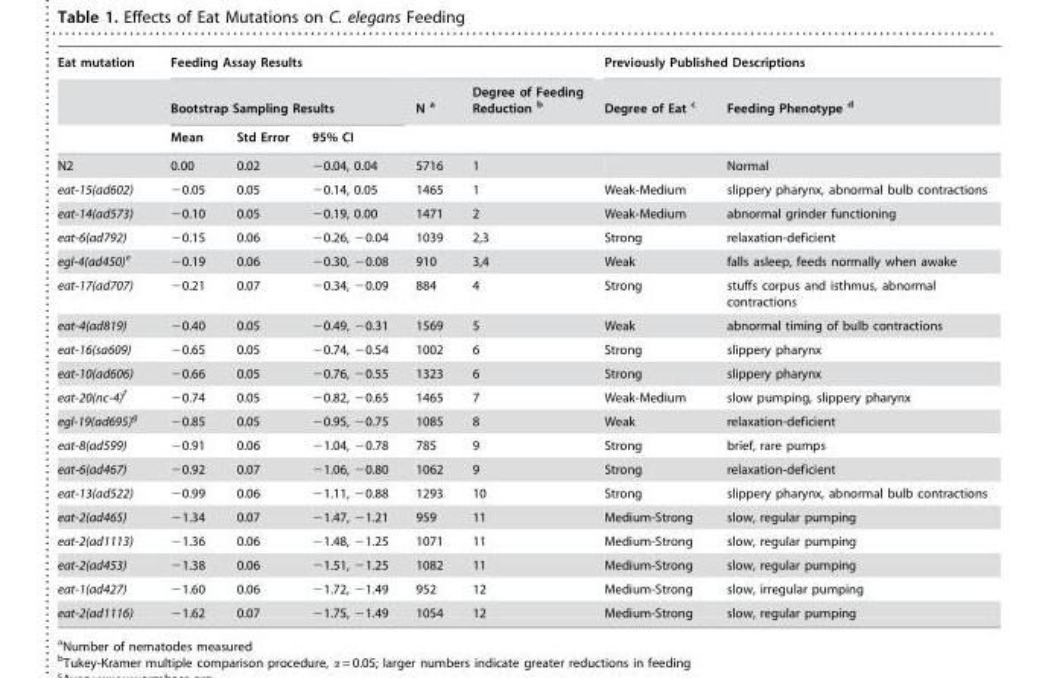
<table><thead><tr><td rowspan="3">Eat mutation</td><td colspan="5">Feeding Assay Results</td><td colspan="2">Previously Published Descriptions</td></tr><tr><td colspan="3">Bootstrap Sampling Results</td><td rowspan="2">N a</td><td rowspan="2">Degree of Feeding Reduction b</td><td rowspan="2">Degree of Eat c</td><td rowspan="2">Feeding Phenotype d</td></tr><tr><td>Mean</td><td>Std Error</td><td>95% CI</td></tr></thead><tbody><tr><td>N2</td><td>0.00</td><td>0.02</td><td>−0.04, 0.04</td><td>5716</td><td>1</td><td></td><td>Normal</td></tr><tr><td>eat-15(ad602)</td><td>−0.05</td><td>0.05</td><td>−0.14, 0.05</td><td>1465</td><td>1</td><td>Weak-Medium</td><td>slippery pharynx, abnormal bulb contractions</td></tr><tr><td>eat-14(ad573)</td><td>−0.10</td><td>0.05</td><td>−0.19, 0.00</td><td>1471</td><td>2</td><td>Weak-Medium</td><td>abnormal grinder functioning</td></tr><tr><td>eat-6(ad792)</td><td>−0.15</td><td>0.06</td><td>−0.26, −0.04</td><td>1039</td><td>2,3</td><td>Strong</td><td>relaxation-deficient</td></tr><tr><td>egl-4(ad450)e</td><td>−0.19</td><td>0.06</td><td>−0.30, −0.08</td><td>910</td><td>3,4</td><td>Weak</td><td>falls asleep, feeds normally when awake</td></tr><tr><td>eat-17(ad707)</td><td>−0.21</td><td>0.07</td><td>−0.34, −0.09</td><td>884</td><td>4</td><td>Strong</td><td>stuffs corpus and isthmus, abnormal contractions</td></tr><tr><td>eat-4(ad819)</td><td>−0.40</td><td>0.05</td><td>−0.49, −0.31</td><td>1569</td><td>5</td><td>Weak</td><td>abnormal timing of bulb contractions</td></tr><tr><td>eat-16(sa609)</td><td>−0.65</td><td>0.05</td><td>−0.74, −0.54</td><td>1002</td><td>6</td><td>Strong</td><td>slippery pharynx</td></tr><tr><td>eat-10(ad606)</td><td>−0.66</td><td>0.05</td><td>−0.76, −0.55</td><td>1323</td><td>6</td><td>Strong</td><td>slippery pharynx</td></tr><tr><td>eat-20(nc-4)f</td><td>−0.74</td><td>0.05</td><td>−0.82, −0.65</td><td>1465</td><td>7</td><td>Weak-Medium</td><td>slow pumping, slippery pharynx</td></tr><tr><td>egl-19(ad695)g</td><td>−0.85</td><td>0.05</td><td>−0.95, −0.75</td><td>1085</td><td>8</td><td>Weak</td><td>relaxation-deficient</td></tr><tr><td>eat-8(ad599)</td><td>−0.91</td><td>0.06</td><td>−1.04, −0.78</td><td>785</td><td>9</td><td>Strong</td><td>brief, rare pumps</td></tr><tr><td>eat-6(ad467)</td><td>−0.92</td><td>0.07</td><td>−1.06, −0.80</td><td>1062</td><td>9</td><td>Strong</td><td>relaxation-deficient</td></tr><tr><td>eat-13(ad522)</td><td>−0.99</td><td>0.06</td><td>−1.11, −0.88</td><td>1293</td><td>10</td><td>Strong</td><td>slippery pharynx, abnormal bulb contractions</td></tr><tr><td>eat-2(ad465)</td><td>−1.34</td><td>0.07</td><td>−1.47, −1.21</td><td>959</td><td>11</td><td>Medium-Strong</td><td>slow, regular pumping</td></tr><tr><td>eat-2(ad1113)</td><td>−1.36</td><td>0.06</td><td>−1.48, −1.25</td><td>1071</td><td>11</td><td>Medium-Strong</td><td>slow, regular pumping</td></tr><tr><td>eat-2(ad453)</td><td>−1.38</td><td>0.06</td><td>−1.51, −1.25</td><td>1082</td><td>11</td><td>Medium-Strong</td><td>slow, regular pumping</td></tr><tr><td>eat-1(ad427)</td><td>−1.60</td><td>0.06</td><td>−1.72, −1.49</td><td>952</td><td>12</td><td>Medium-Strong</td><td>slow, irregular pumping</td></tr><tr><td>eat-2(ad1116)</td><td>−1.62</td><td>0.07</td><td>−1.75, −1.49</td><td>1054</td><td>12</td><td>Medium-Strong</td><td>slow, regular pumping</td></tr></tbody></table>